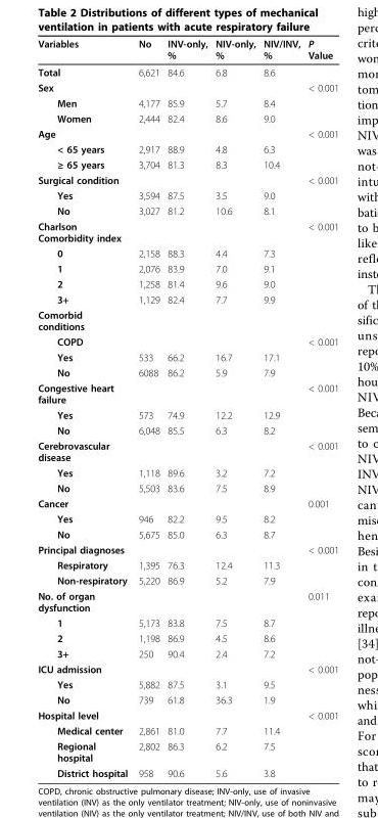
<table><thead><tr><td>Variables</td><td>No</td><td>INV-only, %</td><td>NIV-only, %</td><td>NIV/INV, %</td><td>P Value</td></tr></thead><tbody><tr><td>Total</td><td>6,621</td><td>84.6</td><td>6.8</td><td>8.6</td><td></td></tr><tr><td>Sex</td><td></td><td></td><td></td><td></td><td>&lt; 0.001</td></tr><tr><td>Men</td><td>4,177</td><td>85.9</td><td>5.7</td><td>8.4</td><td></td></tr><tr><td>Women</td><td>2,444</td><td>82.4</td><td>8.6</td><td>9.0</td><td></td></tr><tr><td>Age</td><td></td><td></td><td></td><td></td><td>&lt; 0.001</td></tr><tr><td>&lt; 65 years</td><td>2,917</td><td>88.9</td><td>4.8</td><td>6.3</td><td></td></tr><tr><td>≥ 65 years</td><td>3,704</td><td>81.3</td><td>8.3</td><td>10.4</td><td></td></tr><tr><td>Surgical condition</td><td></td><td></td><td></td><td></td><td>&lt; 0.001</td></tr><tr><td>Yes</td><td>3,594</td><td>87.5</td><td>3.5</td><td>9.0</td><td></td></tr><tr><td>No</td><td>3,027</td><td>81.2</td><td>10.6</td><td>8.1</td><td></td></tr><tr><td>Charlson Comorbidity index</td><td></td><td></td><td></td><td></td><td>&lt; 0.001</td></tr><tr><td>0</td><td>2,158</td><td>88.3</td><td>4.4</td><td>7.3</td><td></td></tr><tr><td>1</td><td>2,076</td><td>83.9</td><td>7.0</td><td>9.1</td><td></td></tr><tr><td>2</td><td>1,258</td><td>81.4</td><td>9.6</td><td>9.0</td><td></td></tr><tr><td>3+</td><td>1,129</td><td>82.4</td><td>7.7</td><td>9.9</td><td></td></tr><tr><td colspan="6">Comorbid conditions</td></tr><tr><td>COPD</td><td></td><td></td><td></td><td></td><td>&lt; 0.001</td></tr><tr><td>Yes</td><td>533</td><td>66.2</td><td>16.7</td><td>17.1</td><td></td></tr><tr><td>No</td><td>6088</td><td>86.2</td><td>5.9</td><td>7.9</td><td></td></tr><tr><td>Congestive heart failure</td><td></td><td></td><td></td><td></td><td>&lt; 0.001</td></tr><tr><td>Yes</td><td>573</td><td>74.9</td><td>12.2</td><td>12.9</td><td></td></tr><tr><td>No</td><td>6,048</td><td>85.5</td><td>6.3</td><td>8.2</td><td></td></tr><tr><td>Cerebrovascular disease</td><td></td><td></td><td></td><td></td><td>&lt; 0.001</td></tr><tr><td>Yes</td><td>1,118</td><td>89.6</td><td>3.2</td><td>7.2</td><td></td></tr><tr><td>No</td><td>5,503</td><td>83.6</td><td>7.5</td><td>8.9</td><td></td></tr><tr><td>Cancer</td><td></td><td></td><td></td><td></td><td>0.001</td></tr><tr><td>Yes</td><td>946</td><td>82.2</td><td>9.5</td><td>8.2</td><td></td></tr><tr><td>No</td><td>5,675</td><td>85.0</td><td>6.3</td><td>8.7</td><td></td></tr><tr><td>Principal diagnoses</td><td></td><td></td><td></td><td></td><td>&lt; 0.001</td></tr><tr><td>Respiratory</td><td>1,395</td><td>76.3</td><td>12.4</td><td>11.3</td><td></td></tr><tr><td>Non-respiratory</td><td>5,220</td><td>86.9</td><td>5.2</td><td>7.9</td><td></td></tr><tr><td>No. of organ dysfunction</td><td></td><td></td><td></td><td></td><td>0.011</td></tr><tr><td>1</td><td>5,173</td><td>83.8</td><td>7.5</td><td>8.7</td><td></td></tr><tr><td>2</td><td>1,198</td><td>86.9</td><td>4.5</td><td>8.6</td><td></td></tr><tr><td>3+</td><td>250</td><td>90.4</td><td>2.4</td><td>7.2</td><td></td></tr><tr><td>ICU admission</td><td></td><td></td><td></td><td></td><td>&lt; 0.001</td></tr><tr><td>Yes</td><td>5,882</td><td>87.5</td><td>3.1</td><td>9.5</td><td></td></tr><tr><td>No</td><td>739</td><td>61.8</td><td>36.3</td><td>1.9</td><td></td></tr><tr><td>Hospital level</td><td></td><td></td><td></td><td></td><td>&lt; 0.001</td></tr><tr><td>Medical center</td><td>2,861</td><td>81.0</td><td>7.7</td><td>11.4</td><td></td></tr><tr><td>Regional hospital</td><td>2,802</td><td>86.3</td><td>6.2</td><td>7.5</td><td></td></tr><tr><td>District hospital</td><td>958</td><td>90.6</td><td>5.6</td><td>3.8</td><td></td></tr></tbody></table>